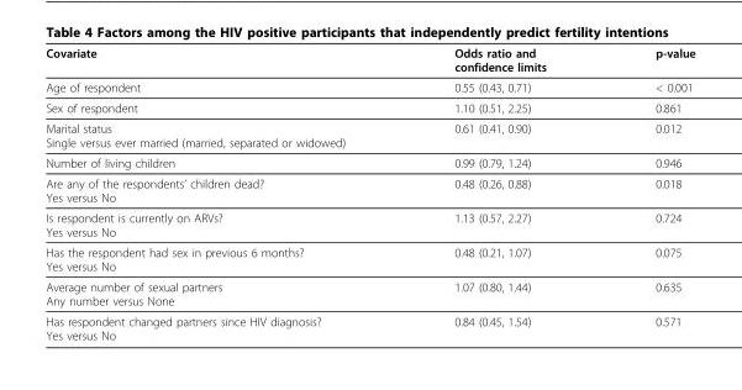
<table><thead><tr><td>Covariate</td><td>Odds ratio and confidence limits</td><td>p-value</td></tr></thead><tbody><tr><td>Age of respondent</td><td>0.55 (0.43, 0.71)</td><td>&lt; 0.001</td></tr><tr><td>Sex of respondent</td><td>1.10 (0.51, 2.25)</td><td>0.861</td></tr><tr><td>Marital status Single versus ever married (married, separated or widowed)</td><td>0.61 (0.41, 0.90)</td><td>0.012</td></tr><tr><td>Number of living children</td><td>0.99 (0.79, 1.24)</td><td>0.946</td></tr><tr><td>Are any of the respondents’ children dead? Yes versus No</td><td>0.48 (0.26, 0.88)</td><td>0.018</td></tr><tr><td>Is respondent is currently on ARVs? Yes versus No</td><td>1.13 (0.57, 2.27)</td><td>0.724</td></tr><tr><td>Has the respondent had sex in previous 6 months? Yes versus No</td><td>0.48 (0.21, 1.07)</td><td>0.075</td></tr><tr><td>Average number of sexual partners Any number versus None</td><td>1.07 (0.80, 1.44)</td><td>0.635</td></tr><tr><td>Has respondent changed partners since HIV diagnosis? Yes versus No</td><td>0.84 (0.45, 1.54)</td><td>0.571</td></tr></tbody></table>